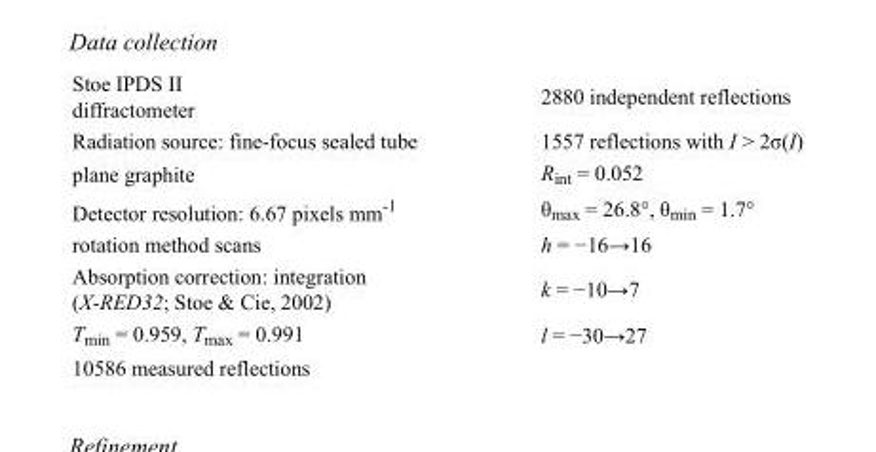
<table><tbody><tr><td>Stoe IPDS II diffractometer</td><td>2880 independent reflections</td></tr><tr><td>Radiation source: fine-focus sealed tube</td><td>1557 reflections with I &gt; 2σ(I)</td></tr><tr><td>plane graphite</td><td>R<sub>int</sub> = 0.052</td></tr><tr><td>Detector resolution: 6.67 pixels mm<sup>-1</sup></td><td>θ<sub>max</sub> = 26.8°, θ<sub>min</sub> = 1.7°</td></tr><tr><td>rotation method scans</td><td>h = −16→16</td></tr><tr><td>Absorption correction: integration (X-RED32; Stoe &amp; Cie, 2002)</td><td>k = −10→7</td></tr><tr><td>T<sub>min</sub> = 0.959, T<sub>max</sub> = 0.991</td><td>l = −30→27</td></tr><tr><td>10586 measured reflections</td><td></td></tr></tbody></table>